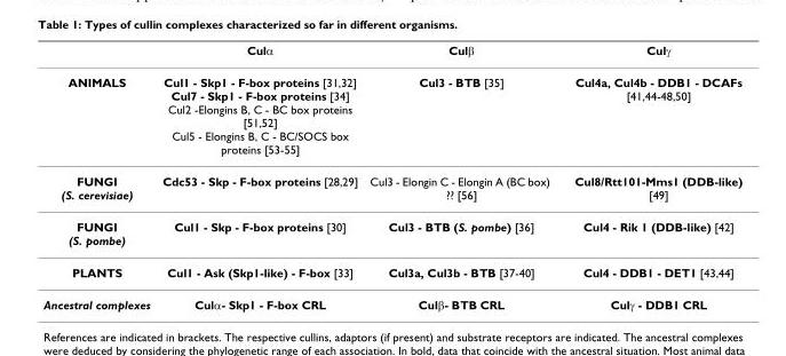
<table><thead><tr><td></td><td>Culα</td><td>Culβ</td><td>Culγ</td></tr></thead><tbody><tr><td>ANIMALS</td><td>Cul1 - Skp1 - F-box proteins [31,32] Cul7 - Skp1 - F-box proteins [34] Cul2 -Elongins B, C - BC box proteins [51,52] Cul5 - Elongins B, C - BC/SOCS box proteins [53-55]</td><td>Cul3 - BTB [35]</td><td>Cul4a, Cul4b - DDB1 - DCAFs [41,44-48,50]</td></tr><tr><td>FUNGI (S. cerevisiae)</td><td>Cdc53 - Skp - F-box proteins [28,29]</td><td>Cul3 - Elongin C - Elongin A (BC box) ?? [56]</td><td>Cul8/Rtt101-Mms1 (DDB-like) [49]</td></tr><tr><td>FUNGI (S. pombe)</td><td>Cul1 - Skp - F-box proteins [30]</td><td>Cul3 - BTB (S. pombe) [36]</td><td>Cul4 - Rik 1 (DDB-like) [42]</td></tr><tr><td>PLANTS</td><td>Cul1 - Ask (Skp1-like) - F-box [33]</td><td>Cul3a, Cul3b - BTB [37-40]</td><td>Cul4 - DDB1 - DET1 [43,44]</td></tr><tr><td>Ancestral complexes</td><td>Culα- Skp1 - F-box CRL</td><td>Culβ- BTB CRL</td><td>Culγ - DDB1 CRL</td></tr></tbody></table>